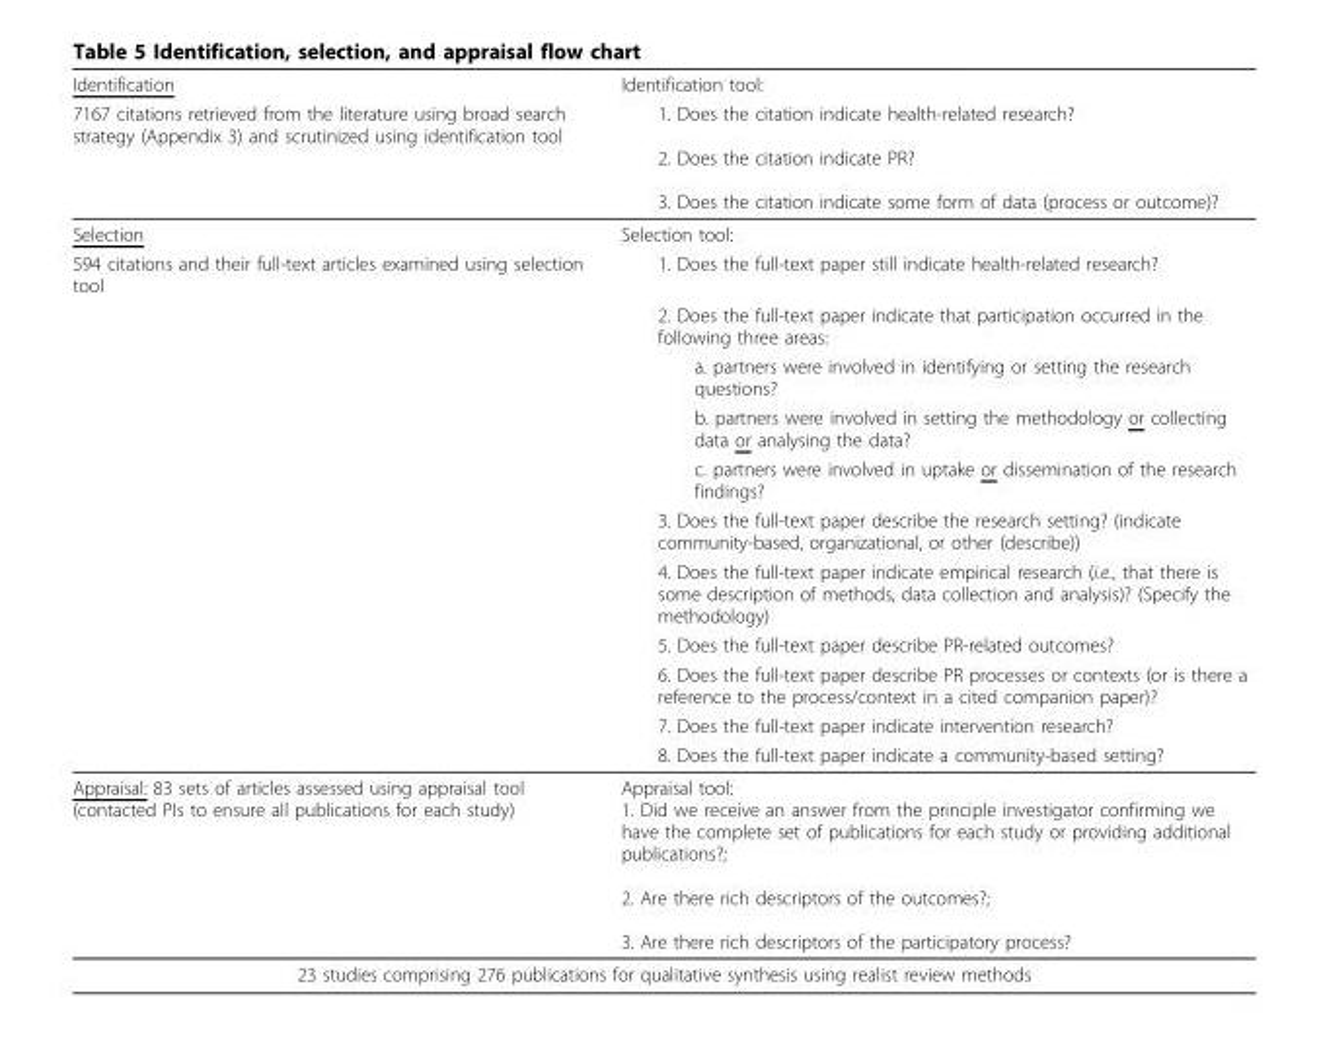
<table><thead><tr><td rowspan="2">Identification 7167 citations retrieved from the literature using broad search strategy (Appendix 3) and scrutinized using identification tool</td><td rowspan="2">Identification tool: 1. Does the citation indicate health-related research? 2. Does the citation indicate PR? 3. Does the citation indicate some form of data (process or outcome)?</td></tr><tr></tr></thead><tbody><tr><td>Selection</td><td>Selection tool:</td></tr><tr><td rowspan="11">594 citations and their full-text articles examined using selection tool</td><td>1. Does the full-text paper still indicate health-related research?</td></tr><tr><td>2. Does the full-text paper indicate that participation occurred in the following three areas:</td></tr><tr><td>a. partners were involved in identifying or setting the research questions?</td></tr><tr><td>b. partners were involved in setting the methodology or collecting data or analysing the data?</td></tr><tr><td>c. partners were involved in uptake or dissemination of the research findings?</td></tr><tr><td>3. Does the full-text paper describe the research setting? (indicate community-based, organizational, or other (describe))</td></tr><tr><td>4. Does the full-text paper indicate empirical research (i.e., that there is some description of methods, data collection and analysis)? (Specify the methodology)</td></tr><tr><td>5. Does the full-text paper describe PR-related outcomes?</td></tr><tr><td>6. Does the full-text paper describe PR processes or contexts (or is there a reference to the process/context in a cited companion paper)?</td></tr><tr><td>7. Does the full-text paper indicate intervention research?</td></tr><tr><td>8. Does the full-text paper indicate a community-based setting?</td></tr><tr><td>Appraisal: 83 sets of articles assessed using appraisal tool (contacted PIs to ensure all publications for each study)</td><td>Appraisal tool: 1. Did we receive an answer from the principle investigator confirming we have the complete set of publications for each study or providing additional publications?; 2. Are there rich descriptors of the outcomes?; 3. Are there rich descriptors of the participatory process?</td></tr><tr><td colspan="2">23 studies comprising 276 publications for qualitative synthesis using realist review methods</td></tr></tbody></table>